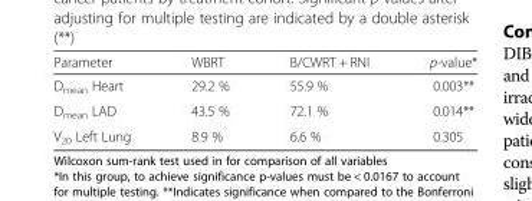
<table><thead><tr><td>Parameter</td><td>WBRT</td><td>B/CWRT + RNI</td><td>p-value*</td></tr></thead><tbody><tr><td>D<sub>mean</sub> Heart</td><td>29.2 %</td><td>55.9 %</td><td>0.003**</td></tr><tr><td>D<sub>mean</sub> LAD</td><td>43.5 %</td><td>72.1 %</td><td>0.014**</td></tr><tr><td>V<sub>20</sub> Left Lung</td><td>8.9 %</td><td>6.6 %</td><td>0.305</td></tr></tbody></table>